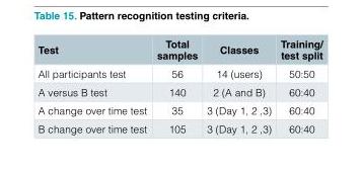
<table><thead><tr><td>Test</td><td>Total samples</td><td>Classes</td><td>Training/ test split</td></tr></thead><tbody><tr><td>All participants test</td><td>56</td><td>14 (users)</td><td>50:50</td></tr><tr><td>A versus B test</td><td>140</td><td>2 (A and B)</td><td>60:40</td></tr><tr><td>A change over time test</td><td>35</td><td>3 (Day 1, 2 ,3)</td><td>60:40</td></tr><tr><td>B change over time test</td><td>105</td><td>3 (Day 1, 2 ,3)</td><td>60:40</td></tr></tbody></table>